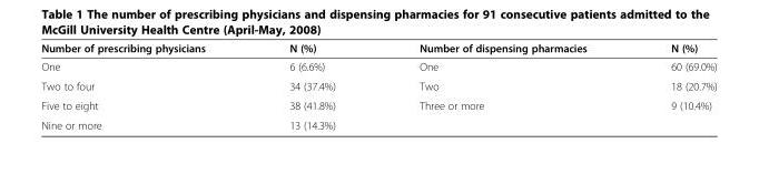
<table><thead><tr><td>Number of prescribing physicians</td><td>N (%)</td><td>Number of dispensing pharmacies</td><td>N (%)</td></tr></thead><tbody><tr><td>One</td><td>6 (6.6%)</td><td>One</td><td>60 (69.0%)</td></tr><tr><td>Two to four</td><td>34 (37.4%)</td><td>Two</td><td>18 (20.7%)</td></tr><tr><td>Five to eight</td><td>38 (41.8%)</td><td>Three or more</td><td>9 (10.4%)</td></tr><tr><td>Nine or more</td><td>13 (14.3%)</td><td></td><td></td></tr></tbody></table>